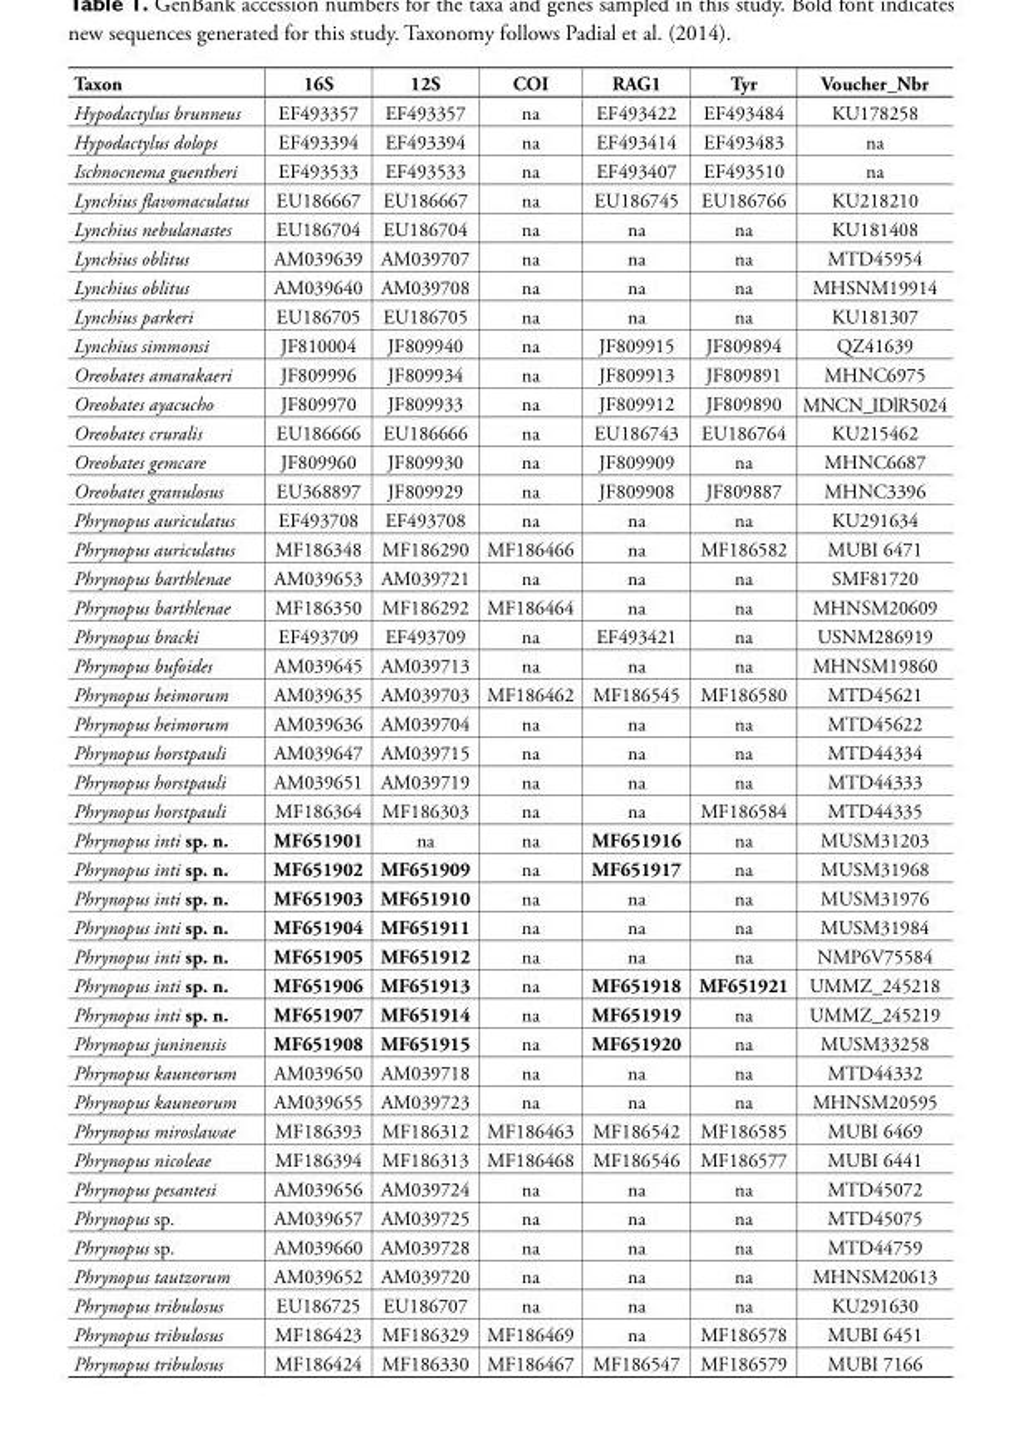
<table><thead><tr><td>Taxon</td><td>16S</td><td>12S</td><td>COI</td><td>RAG1</td><td>Tyr</td><td>Voucher_Nbr</td></tr></thead><tbody><tr><td>Hypodactylus brunneus</td><td>EF493357</td><td>EF493357</td><td>na</td><td>EF493422</td><td>EF493484</td><td>KU178258</td></tr><tr><td>Hypodactylus dolops</td><td>EF493394</td><td>EF493394</td><td>na</td><td>EF493414</td><td>EF493483</td><td>na</td></tr><tr><td>Ischnocnema guentheri</td><td>EF493533</td><td>EF493533</td><td>na</td><td>EF493407</td><td>EF493510</td><td>na</td></tr><tr><td>Lynchius flavomaculatus</td><td>EU186667</td><td>EU186667</td><td>na</td><td>EU186745</td><td>EU186766</td><td>KU218210</td></tr><tr><td>Lynchius nebulanastes</td><td>EU186704</td><td>EU186704</td><td>na</td><td>na</td><td>na</td><td>KU181408</td></tr><tr><td>Lynchius oblitus</td><td>AM039639</td><td>AM039707</td><td>na</td><td>na</td><td>na</td><td>MTD45954</td></tr><tr><td>Lynchius oblitus</td><td>AM039640</td><td>AM039708</td><td>na</td><td>na</td><td>na</td><td>MHSNM19914</td></tr><tr><td>Lynchius parkeri</td><td>EU186705</td><td>EU186705</td><td>na</td><td>na</td><td>na</td><td>KU181307</td></tr><tr><td>Lynchius simmonsi</td><td>JF810004</td><td>JF809940</td><td>na</td><td>JF809915</td><td>JF809894</td><td>QZ41639</td></tr><tr><td>Oreobates amarakaeri</td><td>JF809996</td><td>JF809934</td><td>na</td><td>JF809913</td><td>JF809891</td><td>MHNC6975</td></tr><tr><td>Oreobates ayacucho</td><td>JF809970</td><td>JF809933</td><td>na</td><td>JF809912</td><td>JF809890</td><td>MNCN_IDlR5024</td></tr><tr><td>Oreobates cruralis</td><td>EU186666</td><td>EU186666</td><td>na</td><td>EU186743</td><td>EU186764</td><td>KU215462</td></tr><tr><td>Oreobates gemcare</td><td>JF809960</td><td>JF809930</td><td>na</td><td>JF809909</td><td>na</td><td>MHNC6687</td></tr><tr><td>Oreobates granulosus</td><td>EU368897</td><td>JF809929</td><td>na</td><td>JF809908</td><td>JF809887</td><td>MHNC3396</td></tr><tr><td>Phrynopus auriculatus</td><td>EF493708</td><td>EF493708</td><td>na</td><td>na</td><td>na</td><td>KU291634</td></tr><tr><td>Phrynopus auriculatus</td><td>MF186348</td><td>MF186290</td><td>MF186466</td><td>na</td><td>MF186582</td><td>MUBI 6471</td></tr><tr><td>Phrynopus barthlenae</td><td>AM039653</td><td>AM039721</td><td>na</td><td>na</td><td>na</td><td>SMF81720</td></tr><tr><td>Phrynopus barthlenae</td><td>MF186350</td><td>MF186292</td><td>MF186464</td><td>na</td><td>na</td><td>MHNSM20609</td></tr><tr><td>Phrynopus bracki</td><td>EF493709</td><td>EF493709</td><td>na</td><td>EF493421</td><td>na</td><td>USNM286919</td></tr><tr><td>Phrynopus bufoides</td><td>AM039645</td><td>AM039713</td><td>na</td><td>na</td><td>na</td><td>MHNSM19860</td></tr><tr><td>Phrynopus heimorum</td><td>AM039635</td><td>AM039703</td><td>MF186462</td><td>MF186545</td><td>MF186580</td><td>MTD45621</td></tr><tr><td>Phrynopus heimorum</td><td>AM039636</td><td>AM039704</td><td>na</td><td>na</td><td>na</td><td>MTD45622</td></tr><tr><td>Phrynopus horstpauli</td><td>AM039647</td><td>AM039715</td><td>na</td><td>na</td><td>na</td><td>MTD44334</td></tr><tr><td>Phrynopus horstpauli</td><td>AM039651</td><td>AM039719</td><td>na</td><td>na</td><td>na</td><td>MTD44333</td></tr><tr><td>Phrynopus horstpauli</td><td>MF186364</td><td>MF186303</td><td>na</td><td>na</td><td>MF186584</td><td>MTD44335</td></tr><tr><td>Phrynopus inti sp. n.</td><td>MF651901</td><td>na</td><td>na</td><td>MF651916</td><td>na</td><td>MUSM31203</td></tr><tr><td>Phrynopus inti sp. n.</td><td>MF651902</td><td>MF651909</td><td>na</td><td>MF651917</td><td>na</td><td>MUSM31968</td></tr><tr><td>Phrynopus inti sp. n.</td><td>MF651903</td><td>MF651910</td><td>na</td><td>na</td><td>na</td><td>MUSM31976</td></tr><tr><td>Phrynopus inti sp. n.</td><td>MF651904</td><td>MF651911</td><td>na</td><td>na</td><td>na</td><td>MUSM31984</td></tr><tr><td>Phrynopus inti sp. n.</td><td>MF651905</td><td>MF651912</td><td>na</td><td>na</td><td>na</td><td>NMP6V75584</td></tr><tr><td>Phrynopus inti sp. n.</td><td>MF651906</td><td>MF651913</td><td>na</td><td>MF651918</td><td>MF651921</td><td>UMMZ_245218</td></tr><tr><td>Phrynopus inti sp. n.</td><td>MF651907</td><td>MF651914</td><td>na</td><td>MF651919</td><td>na</td><td>UMMZ_245219</td></tr><tr><td>Phrynopus juninensis</td><td>MF651908</td><td>MF651915</td><td>na</td><td>MF651920</td><td>na</td><td>MUSM33258</td></tr><tr><td>Phrynopus kauneorum</td><td>AM039650</td><td>AM039718</td><td>na</td><td>na</td><td>na</td><td>MTD44332</td></tr><tr><td>Phrynopus kauneorum</td><td>AM039655</td><td>AM039723</td><td>na</td><td>na</td><td>na</td><td>MHNSM20595</td></tr><tr><td>Phrynopus miroslawae</td><td>MF186393</td><td>MF186312</td><td>MF186463</td><td>MF186542</td><td>MF186585</td><td>MUBI 6469</td></tr><tr><td>Phrynopus nicoleae</td><td>MF186394</td><td>MF186313</td><td>MF186468</td><td>MF186546</td><td>MF186577</td><td>MUBI 6441</td></tr><tr><td>Phrynopus pesantesi</td><td>AM039656</td><td>AM039724</td><td>na</td><td>na</td><td>na</td><td>MTD45072</td></tr><tr><td>Phrynopus sp.</td><td>AM039657</td><td>AM039725</td><td>na</td><td>na</td><td>na</td><td>MTD45075</td></tr><tr><td>Phrynopus sp.</td><td>AM039660</td><td>AM039728</td><td>na</td><td>na</td><td>na</td><td>MTD44759</td></tr><tr><td>Phrynopus tautzorum</td><td>AM039652</td><td>AM039720</td><td>na</td><td>na</td><td>na</td><td>MHNSM20613</td></tr><tr><td>Phrynopus tribulosus</td><td>EU186725</td><td>EU186707</td><td>na</td><td>na</td><td>na</td><td>KU291630</td></tr><tr><td>Phrynopus tribulosus</td><td>MF186423</td><td>MF186329</td><td>MF186469</td><td>na</td><td>MF186578</td><td>MUBI 6451</td></tr><tr><td>Phrynopus tribulosus</td><td>MF186424</td><td>MF186330</td><td>MF186467</td><td>MF186547</td><td>MF186579</td><td>MUBI 7166</td></tr></tbody></table>